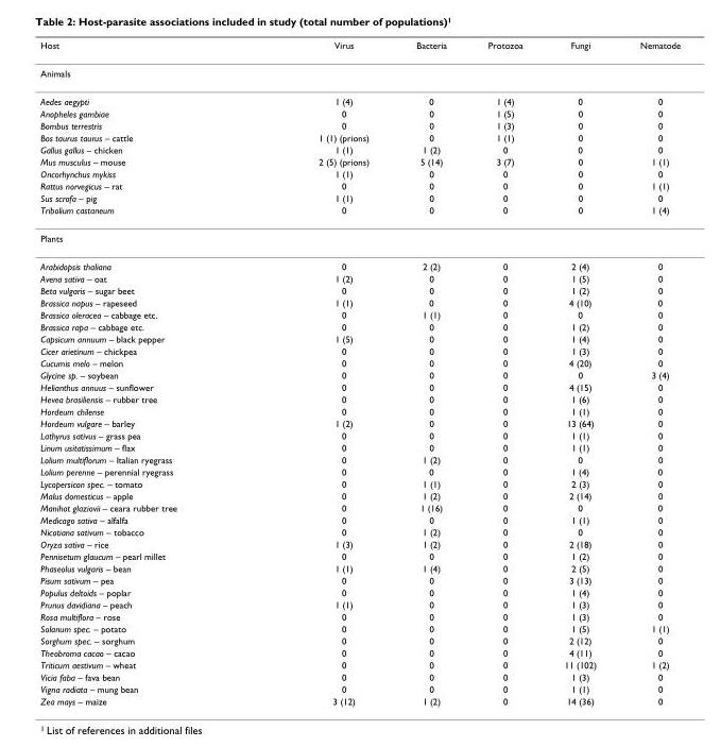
<table><thead><tr><td>Host</td><td>Virus</td><td>Bacteria</td><td>Protozoa</td><td>Fungi</td><td>Nematode</td></tr></thead><tbody><tr><td colspan="6">Animals</td></tr><tr><td>Aedes aegypti</td><td>1 (4)</td><td>0</td><td>1 (4)</td><td>0</td><td>0</td></tr><tr><td>Anopheles gambiae</td><td>0</td><td>0</td><td>1 (5)</td><td>0</td><td>0</td></tr><tr><td>Bombus terrestris</td><td>0</td><td>0</td><td>1 (3)</td><td>0</td><td>0</td></tr><tr><td>Bos taurus taurus – cattle</td><td>1 (1) (prions)</td><td>0</td><td>1 (1)</td><td>0</td><td>0</td></tr><tr><td>Gallus gallus – chicken</td><td>1 (1)</td><td>1 (2)</td><td>0</td><td>0</td><td>0</td></tr><tr><td>Mus musculus – mouse</td><td>2 (5) (prions)</td><td>5 (14)</td><td>3 (7)</td><td>0</td><td>1 (1)</td></tr><tr><td>Oncorhynchus mykiss</td><td>1 (1)</td><td>0</td><td>0</td><td>0</td><td>0</td></tr><tr><td>Rattus norvegicus – rat</td><td>0</td><td>0</td><td>0</td><td>0</td><td>1 (1)</td></tr><tr><td>Sus scrofa – pig</td><td>1 (1)</td><td>0</td><td>0</td><td>0</td><td>0</td></tr><tr><td>Tribolium castaneum</td><td>0</td><td>0</td><td>0</td><td>0</td><td>1 (4)</td></tr><tr><td colspan="6">Plants</td></tr><tr><td>Arabidopsis thaliana</td><td>0</td><td>2 (2)</td><td>0</td><td>2 (4)</td><td>0</td></tr><tr><td>Avena sativa – oat</td><td>1 (2)</td><td>0</td><td>0</td><td>1 (5)</td><td>0</td></tr><tr><td>Beta vulgaris – sugar beet</td><td>0</td><td>0</td><td>0</td><td>1 (2)</td><td>0</td></tr><tr><td>Brassica napus – rapeseed</td><td>1 (1)</td><td>0</td><td>0</td><td>4 (10)</td><td>0</td></tr><tr><td>Brassica oleracea – cabbage etc.</td><td>0</td><td>1 (1)</td><td>0</td><td>0</td><td>0</td></tr><tr><td>Brassica rapa – cabbage etc.</td><td>0</td><td>0</td><td>0</td><td>1 (2)</td><td>0</td></tr><tr><td>Capsicum annuum – black pepper</td><td>1 (5)</td><td>0</td><td>0</td><td>1 (4)</td><td>0</td></tr><tr><td>Cicer arietinum – chickpea</td><td>0</td><td>0</td><td>0</td><td>1 (3)</td><td>0</td></tr><tr><td>Cucumis melo – melon</td><td>0</td><td>0</td><td>0</td><td>4 (20)</td><td>0</td></tr><tr><td>Glycine sp. – soybean</td><td>0</td><td>0</td><td>0</td><td>0</td><td>3 (4)</td></tr><tr><td>Helianthus annuus – sunflower</td><td>0</td><td>0</td><td>0</td><td>4 (15)</td><td>0</td></tr><tr><td>Hevea brasiliensis – rubber tree</td><td>0</td><td>0</td><td>0</td><td>1 (6)</td><td>0</td></tr><tr><td>Hordeum chilense</td><td>0</td><td>0</td><td>0</td><td>1 (1)</td><td>0</td></tr><tr><td>Hordeum vulgare – barley</td><td>1 (2)</td><td>0</td><td>0</td><td>13 (64)</td><td>0</td></tr><tr><td>Lathyrus sativus – grass pea</td><td>0</td><td>0</td><td>0</td><td>1 (1)</td><td>0</td></tr><tr><td>Linum usitatissimum – flax</td><td>0</td><td>0</td><td>0</td><td>1 (1)</td><td>0</td></tr><tr><td>Lolium multiflorum – Italian ryegrass</td><td>0</td><td>1 (2)</td><td>0</td><td>0</td><td>0</td></tr><tr><td>Lolium perenne – perennial ryegrass</td><td>0</td><td>0</td><td>0</td><td>1 (4)</td><td>0</td></tr><tr><td>Lycopersicon spec. – tomato</td><td>0</td><td>1 (1)</td><td>0</td><td>2 (3)</td><td>0</td></tr><tr><td>Malus domesticus – apple</td><td>0</td><td>1 (2)</td><td>0</td><td>2 (14)</td><td>0</td></tr><tr><td>Manihot glaziovii – ceara rubber tree</td><td>0</td><td>1 (16)</td><td>0</td><td>0</td><td>0</td></tr><tr><td>Medicago sativa – alfalfa</td><td>0</td><td>0</td><td>0</td><td>1 (1)</td><td>0</td></tr><tr><td>Nicotiana sativum – tobacco</td><td>0</td><td>1 (2)</td><td>0</td><td>0</td><td>0</td></tr><tr><td>Oryza sativa – rice</td><td>1 (3)</td><td>1 (2)</td><td>0</td><td>2 (18)</td><td>0</td></tr><tr><td>Pennisetum glaucum – pearl millet</td><td>0</td><td>0</td><td>0</td><td>1 (2)</td><td>0</td></tr><tr><td>Phaseolus vulgaris – bean</td><td>1 (1)</td><td>1 (4)</td><td>0</td><td>2 (5)</td><td>0</td></tr><tr><td>Pisum sativum – pea</td><td>0</td><td>0</td><td>0</td><td>3 (13)</td><td>0</td></tr><tr><td>Populus deltoids – poplar</td><td>0</td><td>0</td><td>0</td><td>1 (4)</td><td>0</td></tr><tr><td>Prunus davidiana – peach</td><td>1 (1)</td><td>0</td><td>0</td><td>1 (3)</td><td>0</td></tr><tr><td>Rosa multiflora – rose</td><td>0</td><td>0</td><td>0</td><td>1 (3)</td><td>0</td></tr><tr><td>Solanum spec. – potato</td><td>0</td><td>0</td><td>0</td><td>1 (5)</td><td>1 (1)</td></tr><tr><td>Sorghum spec. – sorghum</td><td>0</td><td>0</td><td>0</td><td>2 (12)</td><td>0</td></tr><tr><td>Theobroma cacao – cacao</td><td>0</td><td>0</td><td>0</td><td>4 (11)</td><td>0</td></tr><tr><td>Triticum aestivum – wheat</td><td>0</td><td>0</td><td>0</td><td>11 (102)</td><td>1 (2)</td></tr><tr><td>Vicia faba – fava bean</td><td>0</td><td>0</td><td>0</td><td>1 (3)</td><td>0</td></tr><tr><td>Vigna radiata – mung bean</td><td>0</td><td>0</td><td>0</td><td>1 (1)</td><td>0</td></tr><tr><td>Zea mays – maize</td><td>3 (12)</td><td>1 (2)</td><td>0</td><td>14 (36)</td><td>0</td></tr></tbody></table>